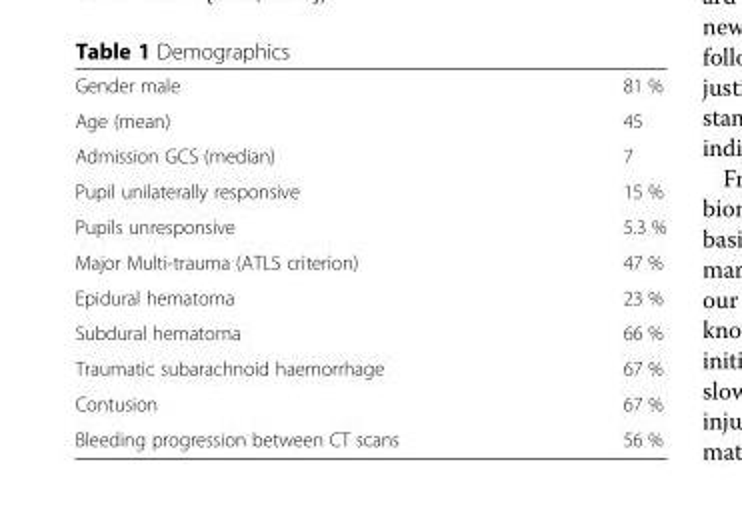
<table><tbody><tr><td>Gender male</td><td>81 %</td></tr><tr><td>Age (mean)</td><td>45</td></tr><tr><td>Admission GCS (median)</td><td>7</td></tr><tr><td>Pupil unilaterally responsive</td><td>15 %</td></tr><tr><td>Pupils unresponsive</td><td>5.3 %</td></tr><tr><td>Major Multi-trauma (ATLS criterion)</td><td>47 %</td></tr><tr><td>Epidural hematoma</td><td>23 %</td></tr><tr><td>Subdural hematoma</td><td>66 %</td></tr><tr><td>Traumatic subarachnoid haemorrhage</td><td>67 %</td></tr><tr><td>Contusion</td><td>67 %</td></tr><tr><td>Bleeding progression between CT scans</td><td>56 %</td></tr></tbody></table>